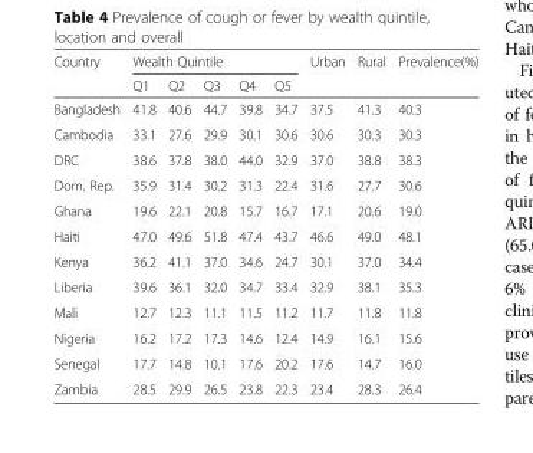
<table><thead><tr><td rowspan="2">Country</td><td colspan="5">Wealth Quintile</td><td rowspan="2">Urban</td><td rowspan="2">Rural</td><td rowspan="2">Prevalence(%)</td></tr><tr><td>Q1</td><td>Q2</td><td>Q3</td><td>Q4</td><td>Q5</td></tr></thead><tbody><tr><td>Bangladesh</td><td>41.8</td><td>40.6</td><td>44.7</td><td>39.8</td><td>34.7</td><td>37.5</td><td>41.3</td><td>40.3</td></tr><tr><td>Cambodia</td><td>33.1</td><td>27.6</td><td>29.9</td><td>30.1</td><td>30.6</td><td>30.6</td><td>30.3</td><td>30.3</td></tr><tr><td>DRC</td><td>38.6</td><td>37.8</td><td>38.0</td><td>44.0</td><td>32.9</td><td>37.0</td><td>38.8</td><td>38.3</td></tr><tr><td>Dom. Rep.</td><td>35.9</td><td>31.4</td><td>30.2</td><td>31.3</td><td>22.4</td><td>31.6</td><td>27.7</td><td>30.6</td></tr><tr><td>Ghana</td><td>19.6</td><td>22.1</td><td>20.8</td><td>15.7</td><td>16.7</td><td>17.1</td><td>20.6</td><td>19.0</td></tr><tr><td>Haiti</td><td>47.0</td><td>49.6</td><td>51.8</td><td>47.4</td><td>43.7</td><td>46.6</td><td>49.0</td><td>48.1</td></tr><tr><td>Kenya</td><td>36.2</td><td>41.1</td><td>37.0</td><td>34.6</td><td>24.7</td><td>30.1</td><td>37.0</td><td>34.4</td></tr><tr><td>Liberia</td><td>39.6</td><td>36.1</td><td>32.0</td><td>34.7</td><td>33.4</td><td>32.9</td><td>38.1</td><td>35.3</td></tr><tr><td>Mali</td><td>12.7</td><td>12.3</td><td>11.1</td><td>11.5</td><td>11.2</td><td>11.7</td><td>11.8</td><td>11.8</td></tr><tr><td>Nigeria</td><td>16.2</td><td>17.2</td><td>17.3</td><td>14.6</td><td>12.4</td><td>14.9</td><td>16.1</td><td>15.6</td></tr><tr><td>Senegal</td><td>17.7</td><td>14.8</td><td>10.1</td><td>17.6</td><td>20.2</td><td>17.6</td><td>14.7</td><td>16.0</td></tr><tr><td>Zambia</td><td>28.5</td><td>29.9</td><td>26.5</td><td>23.8</td><td>22.3</td><td>23.4</td><td>28.3</td><td>26.4</td></tr></tbody></table>